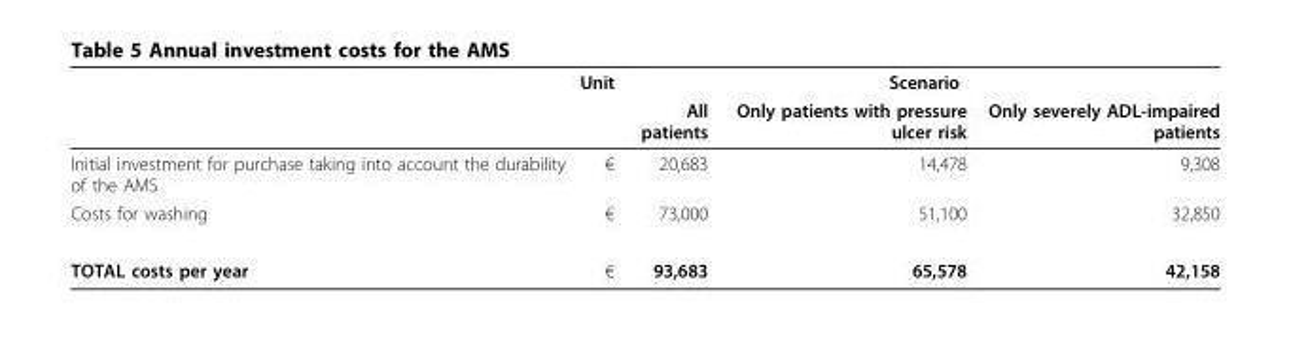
<table><thead><tr><td rowspan="2"></td><td rowspan="2">Unit</td><td colspan="3">Scenario</td></tr><tr><td>All patients</td><td>Only patients with pressure ulcer risk</td><td>Only severely ADL-impaired patients</td></tr></thead><tbody><tr><td>Initial investment for purchase taking into account the durability of the AMS</td><td>€</td><td>20,683</td><td>14,478</td><td>9,308</td></tr><tr><td>Costs for washing</td><td>€</td><td>73,000</td><td>51,100</td><td>32,850</td></tr><tr><td>TOTAL costs per year</td><td>€</td><td>93,683</td><td>65,578</td><td>42,158</td></tr></tbody></table>